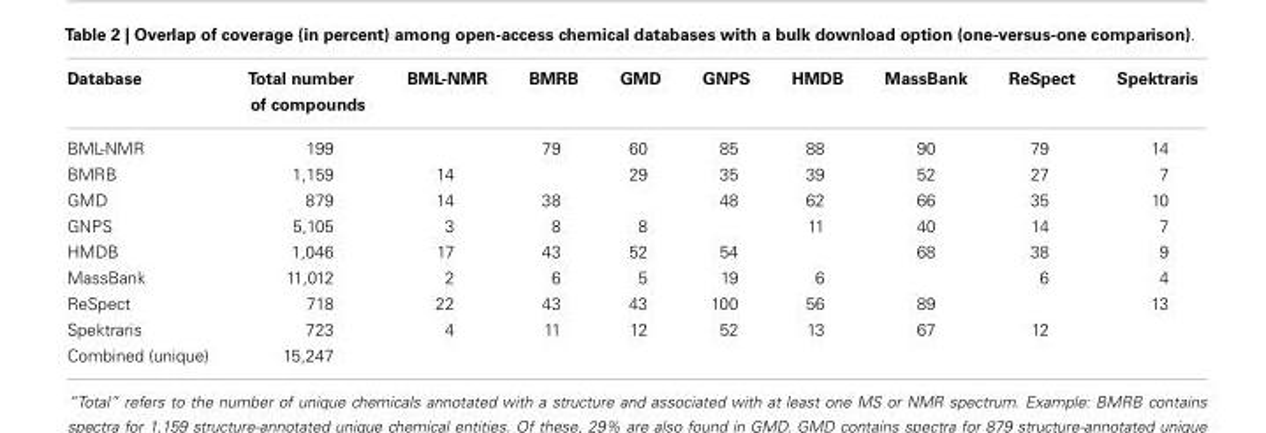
<table><thead><tr><td>Database</td><td>Total number of compounds</td><td>BML-NMR</td><td>BMRB</td><td>GMD</td><td>GNPS</td><td>HMDB</td><td>MassBank</td><td>ReSpect</td><td>Spektraris</td></tr></thead><tbody><tr><td>BML-NMR</td><td>199</td><td></td><td>79</td><td>60</td><td>85</td><td>88</td><td>90</td><td>79</td><td>14</td></tr><tr><td>BMRB</td><td>1,159</td><td>14</td><td></td><td>29</td><td>35</td><td>39</td><td>52</td><td>27</td><td>7</td></tr><tr><td>GMD</td><td>879</td><td>14</td><td>38</td><td></td><td>48</td><td>62</td><td>66</td><td>35</td><td>10</td></tr><tr><td>GNPS</td><td>5,105</td><td>3</td><td>8</td><td>8</td><td></td><td>11</td><td>40</td><td>14</td><td>7</td></tr><tr><td>HMDB</td><td>1,046</td><td>17</td><td>43</td><td>52</td><td>54</td><td></td><td>68</td><td>38</td><td>9</td></tr><tr><td>MassBank</td><td>11,012</td><td>2</td><td>6</td><td>5</td><td>19</td><td>6</td><td></td><td>6</td><td>4</td></tr><tr><td>ReSpect</td><td>718</td><td>22</td><td>43</td><td>43</td><td>100</td><td>56</td><td>89</td><td></td><td>13</td></tr><tr><td>Spektraris</td><td>723</td><td>4</td><td>11</td><td>12</td><td>52</td><td>13</td><td>67</td><td>12</td><td></td></tr><tr><td>Combined (unique)</td><td>15,247</td><td></td><td></td><td></td><td></td><td></td><td></td><td></td><td></td></tr></tbody></table>